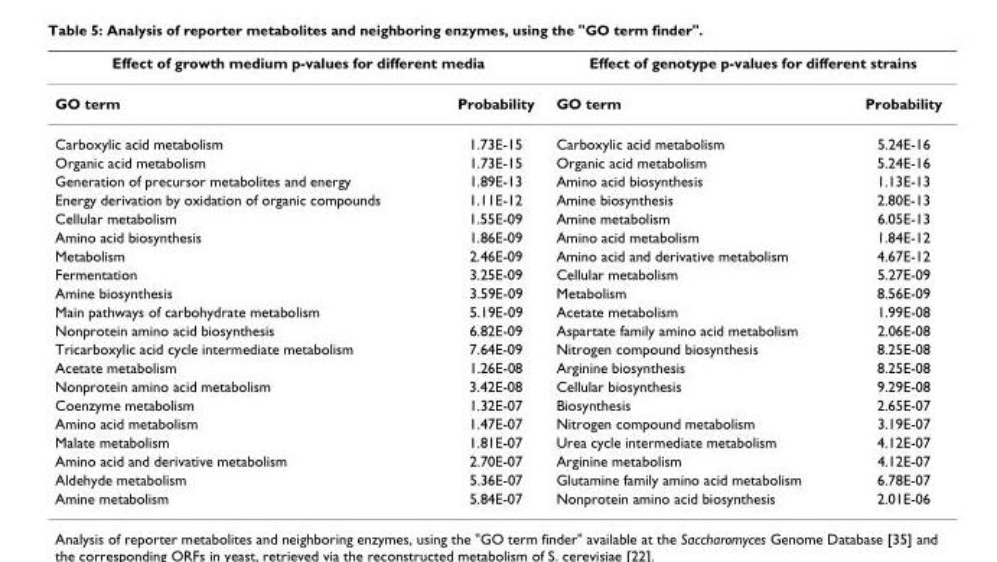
<table><thead><tr><td colspan="2">Effect of growth medium p-values for different media</td><td colspan="2">Effect of genotype p-values for different strains</td></tr><tr><td>GO term</td><td>Probability</td><td>GO term</td><td>Probability</td></tr></thead><tbody><tr><td>Carboxylic acid metabolism</td><td>1.73E-15</td><td>Carboxylic acid metabolism</td><td>5.24E-16</td></tr><tr><td>Organic acid metabolism</td><td>1.73E-15</td><td>Organic acid metabolism</td><td>5.24E-16</td></tr><tr><td>Generation of precursor metabolites and energy</td><td>1.89E-13</td><td>Amino acid biosynthesis</td><td>1.13E-13</td></tr><tr><td>Energy derivation by oxidation of organic compounds</td><td>1.11E-12</td><td>Amine biosynthesis</td><td>2.80E-13</td></tr><tr><td>Cellular metabolism</td><td>1.55E-09</td><td>Amine metabolism</td><td>6.05E-13</td></tr><tr><td>Amino acid biosynthesis</td><td>1.86E-09</td><td>Amino acid metabolism</td><td>1.84E-12</td></tr><tr><td>Metabolism</td><td>2.46E-09</td><td>Amino acid and derivative metabolism</td><td>4.67E-12</td></tr><tr><td>Fermentation</td><td>3.25E-09</td><td>Cellular metabolism</td><td>5.27E-09</td></tr><tr><td>Amine biosynthesis</td><td>3.59E-09</td><td>Metabolism</td><td>8.56E-09</td></tr><tr><td>Main pathways of carbohydrate metabolism</td><td>5.19E-09</td><td>Acetate metabolism</td><td>1.99E-08</td></tr><tr><td>Nonprotein amino acid biosynthesis</td><td>6.82E-09</td><td>Aspartate family amino acid metabolism</td><td>2.06E-08</td></tr><tr><td>Tricarboxylic acid cycle intermediate metabolism</td><td>7.64E-09</td><td>Nitrogen compound biosynthesis</td><td>8.25E-08</td></tr><tr><td>Acetate metabolism</td><td>1.26E-08</td><td>Arginine biosynthesis</td><td>8.25E-08</td></tr><tr><td>Nonprotein amino acid metabolism</td><td>3.42E-08</td><td>Cellular biosynthesis</td><td>9.29E-08</td></tr><tr><td>Coenzyme metabolism</td><td>1.32E-07</td><td>Biosynthesis</td><td>2.65E-07</td></tr><tr><td>Amino acid metabolism</td><td>1.47E-07</td><td>Nitrogen compound metabolism</td><td>3.19E-07</td></tr><tr><td>Malate metabolism</td><td>1.81E-07</td><td>Urea cycle intermediate metabolism</td><td>4.12E-07</td></tr><tr><td>Amino acid and derivative metabolism</td><td>2.70E-07</td><td>Arginine metabolism</td><td>4.12E-07</td></tr><tr><td>Aldehyde metabolism</td><td>5.36E-07</td><td>Glutamine family amino acid metabolism</td><td>6.78E-07</td></tr><tr><td>Amine metabolism</td><td>5.84E-07</td><td>Nonprotein amino acid biosynthesis</td><td>2.01E-06</td></tr></tbody></table>